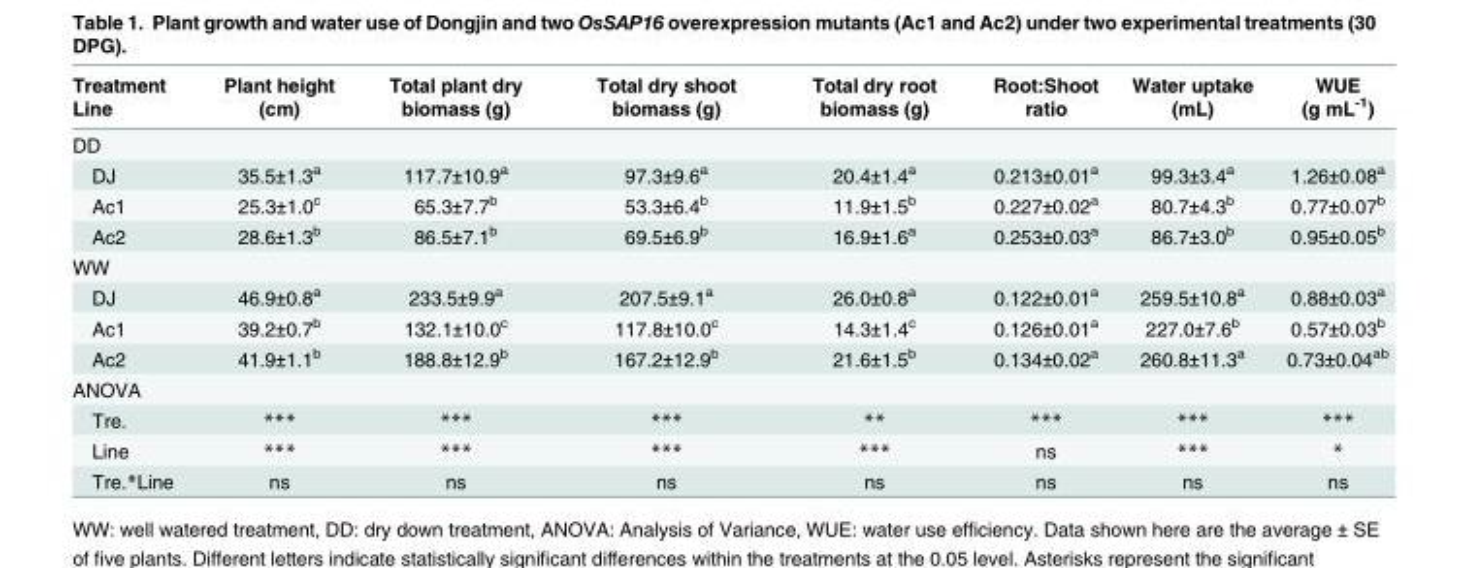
<table><thead><tr><td>Treatment Line</td><td>Plant height (cm)</td><td>Total plant dry biomass (g)</td><td>Total dry shoot biomass (g)</td><td>Total dry root biomass (g)</td><td>Root:Shoot ratio</td><td>Water uptake (mL)</td><td>WUE (g mL<sup>-1</sup>)</td></tr></thead><tbody><tr><td colspan="8">DD</td></tr><tr><td>DJ</td><td>35.5±1.3<sup>a</sup></td><td>117.7±10.9<sup>a</sup></td><td>97.3±9.6<sup>a</sup></td><td>20.4±1.4<sup>a</sup></td><td>0.213±0.01<sup>a</sup></td><td>99.3±3.4<sup>a</sup></td><td>1.26±0.08<sup>a</sup></td></tr><tr><td>Ac1</td><td>25.3±1.0<sup>c</sup></td><td>65.3±7.7<sup>b</sup></td><td>53.3±6.4<sup>b</sup></td><td>11.9±1.5<sup>b</sup></td><td>0.227±0.02<sup>a</sup></td><td>80.7±4.3<sup>b</sup></td><td>0.77±0.07<sup>b</sup></td></tr><tr><td>Ac2</td><td>28.6±1.3<sup>b</sup></td><td>86.5±7.1<sup>b</sup></td><td>69.5±6.9<sup>b</sup></td><td>16.9±1.6<sup>a</sup></td><td>0.253±0.03<sup>a</sup></td><td>86.7±3.0<sup>b</sup></td><td>0.95±0.05<sup>b</sup></td></tr><tr><td colspan="8">WW</td></tr><tr><td>DJ</td><td>46.9±0.8<sup>a</sup></td><td>233.5±9.9<sup>a</sup></td><td>207.5±9.1<sup>a</sup></td><td>26.0±0.8<sup>a</sup></td><td>0.122±0.01<sup>a</sup></td><td>259.5±10.8<sup>a</sup></td><td>0.88±0.03<sup>a</sup></td></tr><tr><td>Ac1</td><td>39.2±0.7<sup>b</sup></td><td>132.1±10.0<sup>c</sup></td><td>117.8±10.0<sup>c</sup></td><td>14.3±1.4<sup>c</sup></td><td>0.126±0.01<sup>a</sup></td><td>227.0±7.6<sup>b</sup></td><td>0.57±0.03<sup>b</sup></td></tr><tr><td>Ac2</td><td>41.9±1.1<sup>b</sup></td><td>188.8±12.9<sup>b</sup></td><td>167.2±12.9<sup>b</sup></td><td>21.6±1.5<sup>b</sup></td><td>0.134±0.02<sup>a</sup></td><td>260.8±11.3<sup>a</sup></td><td>0.73±0.04<sup>ab</sup></td></tr><tr><td colspan="8">ANOVA</td></tr><tr><td>Tre.</td><td>***</td><td>***</td><td>***</td><td>**</td><td>***</td><td>***</td><td>***</td></tr><tr><td>Line</td><td>***</td><td>***</td><td>***</td><td>***</td><td>ns</td><td>***</td><td>*</td></tr><tr><td>Tre.*Line</td><td>ns</td><td>ns</td><td>ns</td><td>ns</td><td>ns</td><td>ns</td><td>ns</td></tr></tbody></table>